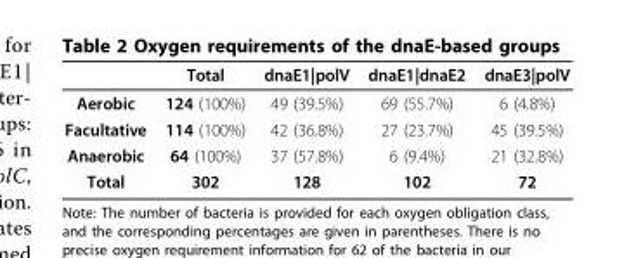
<table><thead><tr><td></td><td>Total</td><td>dnaE1|polV</td><td>dnaE1|dnaE2</td><td>dnaE3|polV</td></tr></thead><tbody><tr><td>Aerobic</td><td>124 (100%)</td><td>49 (39.5%)</td><td>69 (55.7%)</td><td>6 (4.8%)</td></tr><tr><td>Facultative</td><td>114 (100%)</td><td>42 (36.8%)</td><td>27 (23.7%)</td><td>45 (39.5%)</td></tr><tr><td>Anaerobic</td><td>64 (100%)</td><td>37 (57.8%)</td><td>6 (9.4%)</td><td>21 (32.8%)</td></tr><tr><td>Total</td><td>302</td><td>128</td><td>102</td><td>72</td></tr></tbody></table>